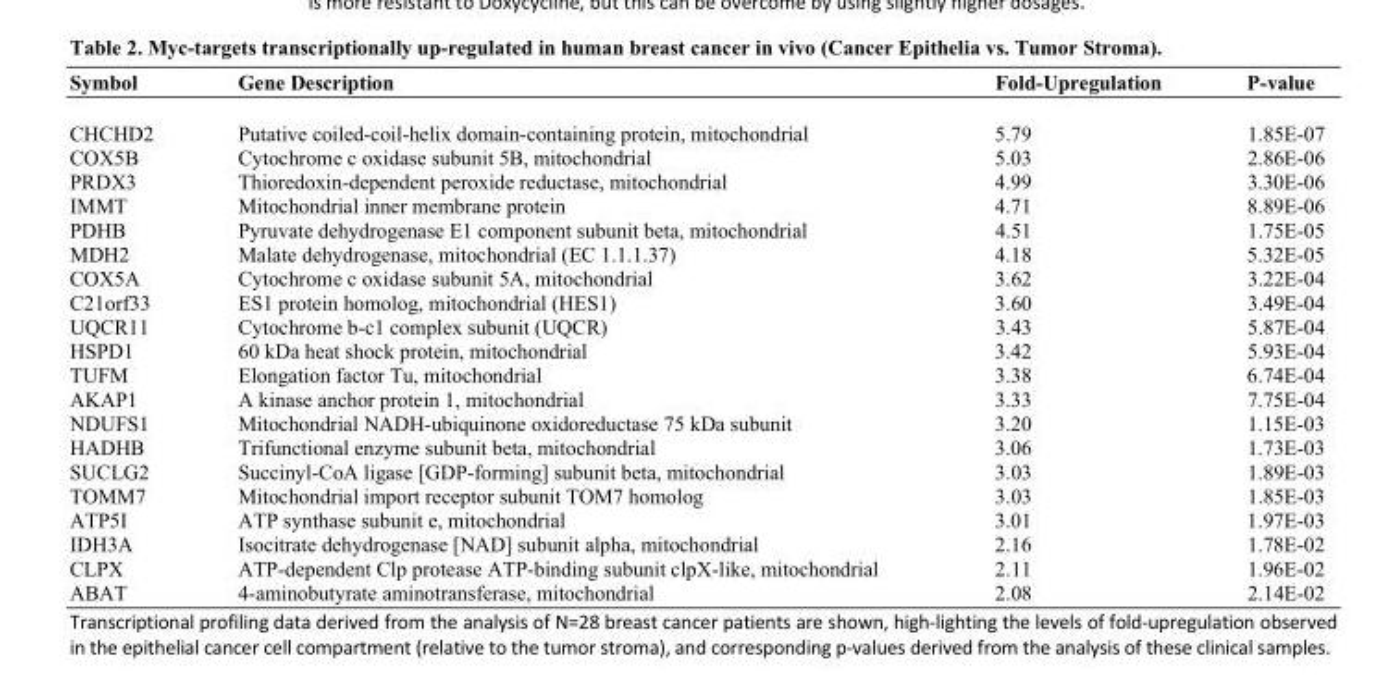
<table><thead><tr><td>Symbol</td><td>Gene Description</td><td>Fold-Upregulation</td><td>P-value</td></tr></thead><tbody><tr><td>CHCHD2</td><td>Putative coiled-coil-helix domain-containing protein, mitochondrial</td><td>5.79</td><td>1.85E-07</td></tr><tr><td>COX5B</td><td>Cytochrome c oxidase subunit 5B, mitochondrial</td><td>5.03</td><td>2.86E-06</td></tr><tr><td>PRDX3</td><td>Thioredoxin-dependent peroxide reductase, mitochondrial</td><td>4.99</td><td>3.30E-06</td></tr><tr><td>IMMT</td><td>Mitochondrial inner membrane protein</td><td>4.71</td><td>8.89E-06</td></tr><tr><td>PDHB</td><td>Pyruvate dehydrogenase E1 component subunit beta, mitochondrial</td><td>4.51</td><td>1.75E-05</td></tr><tr><td>MDH2</td><td>Malate dehydrogenase, mitochondrial (EC 1.1.1.37)</td><td>4.18</td><td>5.32E-05</td></tr><tr><td>COX5A</td><td>Cytochrome c oxidase subunit 5A, mitochondrial</td><td>3.62</td><td>3.22E-04</td></tr><tr><td>C21orf33</td><td>ES1 protein homolog, mitochondrial (HES1)</td><td>3.60</td><td>3.49E-04</td></tr><tr><td>UQCR11</td><td>Cytochrome b-c1 complex subunit (UQCR)</td><td>3.43</td><td>5.87E-04</td></tr><tr><td>HSPD1</td><td>60 kDa heat shock protein, mitochondrial</td><td>3.42</td><td>5.93E-04</td></tr><tr><td>TUFM</td><td>Elongation factor Tu, mitochondrial</td><td>3.38</td><td>6.74E-04</td></tr><tr><td>AKAP1</td><td>A kinase anchor protein 1, mitochondrial</td><td>3.33</td><td>7.75E-04</td></tr><tr><td>NDUFS1</td><td>Mitochondrial NADH-ubiquinone oxidoreductase 75 kDa subunit</td><td>3.20</td><td>1.15E-03</td></tr><tr><td>HADHB</td><td>Trifunctional enzyme subunit beta, mitochondrial</td><td>3.06</td><td>1.73E-03</td></tr><tr><td>SUCLG2</td><td>Succinyl-CoA ligase [GDP-forming] subunit beta, mitochondrial</td><td>3.03</td><td>1.89E-03</td></tr><tr><td>TOMM7</td><td>Mitochondrial import receptor subunit TOM7 homolog</td><td>3.03</td><td>1.85E-03</td></tr><tr><td>ATP5I</td><td>ATP synthase subunit e, mitochondrial</td><td>3.01</td><td>1.97E-03</td></tr><tr><td>IDH3A</td><td>Isocitrate dehydrogenase [NAD] subunit alpha, mitochondrial</td><td>2.16</td><td>1.78E-02</td></tr><tr><td>CLPX</td><td>ATP-dependent Clp protease ATP-binding subunit clpX-like, mitochondrial</td><td>2.11</td><td>1.96E-02</td></tr><tr><td>ABAT</td><td>4-aminobutyrate aminotransferase, mitochondrial</td><td>2.08</td><td>2.14E-02</td></tr></tbody></table>